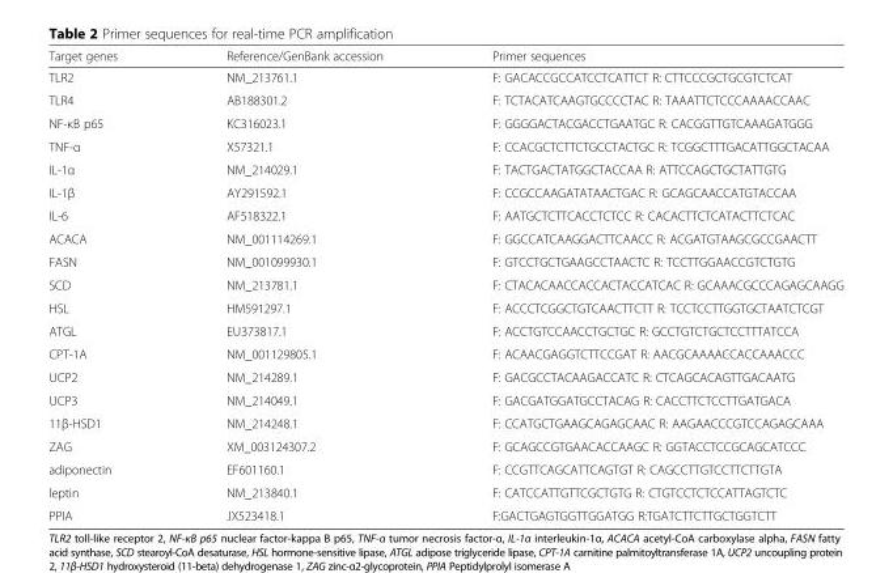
<table><thead><tr><td>Target genes</td><td>Reference/GenBank accession</td><td>Primer sequences</td></tr></thead><tbody><tr><td>TLR2</td><td>NM_213761.1</td><td>F: GACACCGCCATCCTCATTCT R: CTTCCCGCTGCGTCTCAT</td></tr><tr><td>TLR4</td><td>AB188301.2</td><td>F: TCTACATCAAGTGCCCCTAC R: TAAATTCTCCCAAAACCAAC</td></tr><tr><td>NF-κB p65</td><td>KC316023.1</td><td>F: GGGGACTACGACCTGAATGC R: CACGGTTGTCAAAGATGGG</td></tr><tr><td>TNF-α</td><td>X57321.1</td><td>F: CCACGCTCTTCTGCCTACTGC R: TCGGCTTTGACATTGGCTACAA</td></tr><tr><td>IL-1α</td><td>NM_214029.1</td><td>F: TACTGACTATGGCTACCAA R: ATTCCAGCTGCTATTGTG</td></tr><tr><td>IL-1β</td><td>AY291592.1</td><td>F: CCGCCAAGATATAACTGAC R: GCAGCAACCATGTACCAA</td></tr><tr><td>IL-6</td><td>AF518322.1</td><td>F: AATGCTCTTCACCTCTCC R: CACACTTCTCATACTTCTCAC</td></tr><tr><td>ACACA</td><td>NM_001114269.1</td><td>F: GGCCATCAAGGACTTCAACC R: ACGATGTAAGCGCCGAACTT</td></tr><tr><td>FASN</td><td>NM_001099930.1</td><td>F: GTCCTGCTGAAGCCTAACTC R: TCCTTGGAACCGTCTGTG</td></tr><tr><td>SCD</td><td>NM_213781.1</td><td>F: CTACACAACCACCACTACCATCAC R: GCAAACGCCCAGAGCAAGG</td></tr><tr><td>HSL</td><td>HM591297.1</td><td>F: ACCCTCGGCTGTCAACTTCTT R: TCCTCCTTGGTGCTAATCTCGT</td></tr><tr><td>ATGL</td><td>EU373817.1</td><td>F: ACCTGTCCAACCTGCTGC R: GCCTGTCTGCTCCTTTATCCA</td></tr><tr><td>CPT-1A</td><td>NM_001129805.1</td><td>F: ACAACGAGGTCTTCCGAT R: AACGCAAAACCACCAAACCC</td></tr><tr><td>UCP2</td><td>NM_214289.1</td><td>F: GACGCCTACAAGACCATC R: CTCAGCACAGTTGACAATG</td></tr><tr><td>UCP3</td><td>NM_214049.1</td><td>F: GACGATGGATGCCTACAG R: CACCTTCTCCTTGATGACA</td></tr><tr><td>11β-HSD1</td><td>NM_214248.1</td><td>F: CCATGCTGAAGCAGAGCAAC R: AAGAACCCGTCCAGAGCAAA</td></tr><tr><td>ZAG</td><td>XM_003124307.2</td><td>F: GCAGCCGTGAACACCAAGC R: GGTACCTCCGCAGCATCCC</td></tr><tr><td>adiponectin</td><td>EF601160.1</td><td>F: CCGTTCAGCATTCAGTGT R: CAGCCTTGTCCTTCTTGTA</td></tr><tr><td>leptin</td><td>NM_213840.1</td><td>F: CATCCATTGTTCGCTGTG R: CTGTCCTCTCCATTAGTCTC</td></tr><tr><td>PPIA</td><td>JX523418.1</td><td>F:GACTGAGTGGTTGGATGG R:TGATCTTCTTGCTGGTCTT</td></tr></tbody></table>